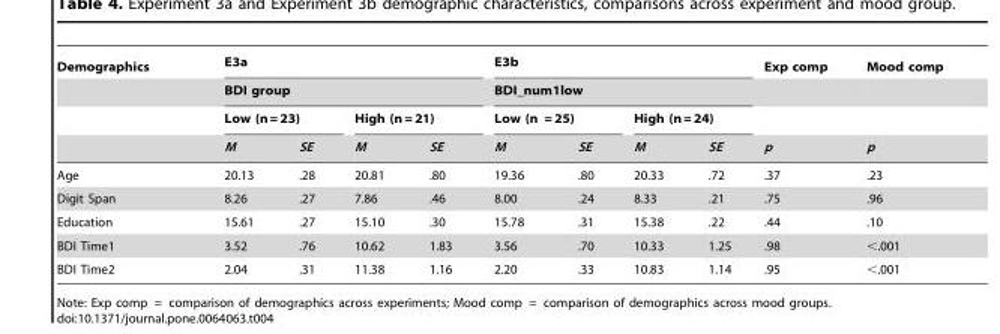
<table><thead><tr><td rowspan="4">Demographics</td><td rowspan="2" colspan="4">E3a BDI group</td><td rowspan="2" colspan="4">E3b BDI_num1low</td><td rowspan="4">Exp comp p</td><td rowspan="4">Mood comp p</td></tr><tr></tr><tr><td colspan="2">Low (n = 23)</td><td colspan="2">High (n = 21)</td><td colspan="2">Low (n = 25)</td><td colspan="2">High (n = 24)</td></tr><tr><td>M</td><td>SE</td><td>M</td><td>SE</td><td>M</td><td>SE</td><td>M</td><td>SE</td></tr></thead><tbody><tr><td>Age</td><td>20.13</td><td>.28</td><td>20.81</td><td>.80</td><td>19.36</td><td>.80</td><td>20.33</td><td>.72</td><td>.37</td><td>.23</td></tr><tr><td>Digit Span</td><td>8.26</td><td>.27</td><td>7.86</td><td>.46</td><td>8.00</td><td>.24</td><td>8.33</td><td>.21</td><td>.75</td><td>.96</td></tr><tr><td>Education</td><td>15.61</td><td>.27</td><td>15.10</td><td>.30</td><td>15.78</td><td>.31</td><td>15.38</td><td>.22</td><td>.44</td><td>.10</td></tr><tr><td>BDI Time1</td><td>3.52</td><td>.76</td><td>10.62</td><td>1.83</td><td>3.56</td><td>.70</td><td>10.33</td><td>1.25</td><td>.98</td><td>&lt;.001</td></tr><tr><td>BDI Time2</td><td>2.04</td><td>.31</td><td>11.38</td><td>1.16</td><td>2.20</td><td>.33</td><td>10.83</td><td>1.14</td><td>.95</td><td>&lt;.001</td></tr></tbody></table>